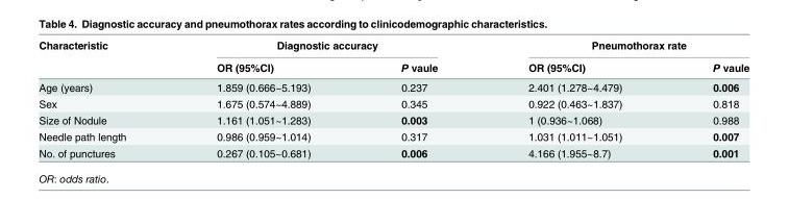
<table><thead><tr><td rowspan="2">Characteristic</td><td colspan="2">Diagnostic accuracy</td><td colspan="2">Pneumothorax rate</td></tr><tr><td>OR (95%CI)</td><td>P vaule</td><td>OR (95%CI)</td><td>P vaule</td></tr></thead><tbody><tr><td>Age (years)</td><td>1.859 (0.666~5.193)</td><td>0.237</td><td>2.401 (1.278~4.479)</td><td>0.006</td></tr><tr><td>Sex</td><td>1.675 (0.574~4.889)</td><td>0.345</td><td>0.922 (0.463~1.837)</td><td>0.818</td></tr><tr><td>Size of Nodule</td><td>1.161 (1.051~1.283)</td><td>0.003</td><td>1 (0.936~1.068)</td><td>0.988</td></tr><tr><td>Needle path length</td><td>0.986 (0.959~1.014)</td><td>0.317</td><td>1.031 (1.011~1.051)</td><td>0.007</td></tr><tr><td>No. of punctures</td><td>0.267 (0.105~0.681)</td><td>0.006</td><td>4.166 (1.955~8.7)</td><td>0.001</td></tr></tbody></table>